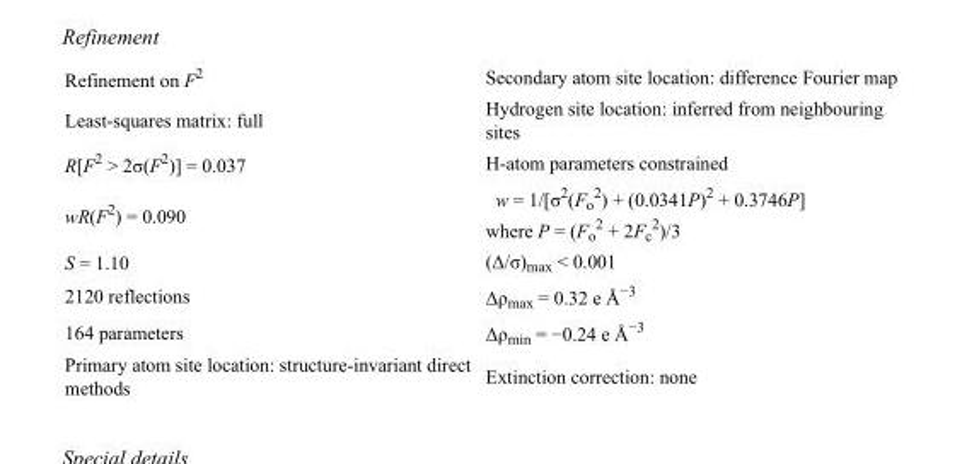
<table><tbody><tr><td>Refinement on F<sup>2</sup></td><td>Secondary atom site location: difference Fourier map</td></tr><tr><td>Least-squares matrix: full</td><td>Hydrogen site location: inferred from neighbouring sites</td></tr><tr><td>R[F<sup>2</sup> &gt; 2σ(F<sup>2</sup>)] = 0.037</td><td>H-atom parameters constrained</td></tr><tr><td>wR(F<sup>2</sup>) = 0.090</td><td>w = 1/[σ<sup>2</sup>(F<sub>o</sub> <sup>2</sup>) + (0.0341P)<sup>2</sup> + 0.3746P] where P = (F<sub>o</sub> <sup>2</sup> + 2F<sub>c</sub> <sup>2</sup>)/3</td></tr><tr><td>S = 1.10</td><td>(Δ/σ)<sub>max</sub> &lt; 0.001</td></tr><tr><td>2120 reflections</td><td>Δρ<sub>max</sub> = 0.32 e Å<sup>−3</sup></td></tr><tr><td>164 parameters</td><td>Δρ<sub>min</sub> = −0.24 e Å<sup>−3</sup></td></tr><tr><td>Primary atom site location: structure-invariant direct methods</td><td>Extinction correction: none</td></tr></tbody></table>